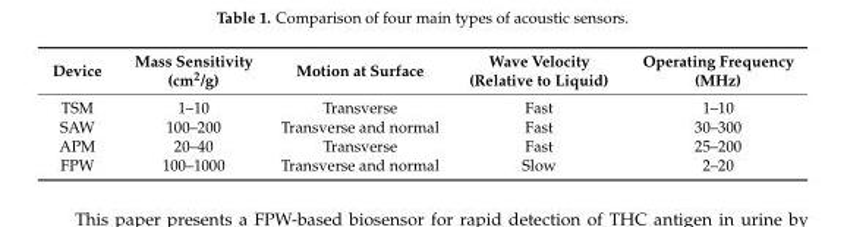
<table><thead><tr><td>Device</td><td>Mass Sensitivity (cm<sup>2</sup>/g)</td><td>Motion at Surface</td><td>Wave Velocity (Relative to Liquid)</td><td>Operating Frequency (MHz)</td></tr></thead><tbody><tr><td>TSM</td><td>1–10</td><td>Transverse</td><td>Fast</td><td>1–10</td></tr><tr><td>SAW</td><td>100–200</td><td>Transverse and normal</td><td>Fast</td><td>30–300</td></tr><tr><td>APM</td><td>20–40</td><td>Transverse</td><td>Fast</td><td>25–200</td></tr><tr><td>FPW</td><td>100–1000</td><td>Transverse and normal</td><td>Slow</td><td>2–20</td></tr></tbody></table>